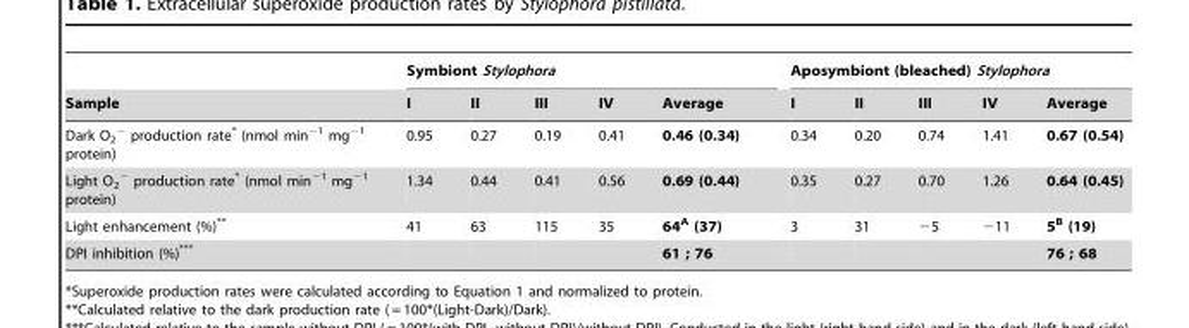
<table><thead><tr><td rowspan="2">Sample</td><td colspan="5">Symbiont Stylophora</td><td colspan="5">Aposymbiont (bleached) Stylophora</td></tr><tr><td>I</td><td>II</td><td>III</td><td>IV</td><td>Average</td><td>I</td><td>II</td><td>III</td><td>IV</td><td>Average</td></tr></thead><tbody><tr><td>Dark O<sub>2</sub> <sup>−</sup> production rate* (nmol min<sup>−1</sup> mg<sup>−1</sup> protein)</td><td>0.95</td><td>0.27</td><td>0.19</td><td>0.41</td><td>0.46 (0.34)</td><td>0.34</td><td>0.20</td><td>0.74</td><td>1.41</td><td>0.67 (0.54)</td></tr><tr><td>Light O<sub>2</sub> <sup>−</sup> production rate* (nmol min<sup>−1</sup> mg<sup>−1</sup> protein)</td><td>1.34</td><td>0.44</td><td>0.41</td><td>0.56</td><td>0.69 (0.44)</td><td>0.35</td><td>0.27</td><td>0.70</td><td>1.26</td><td>0.64 (0.45)</td></tr><tr><td>Light enhancement (%)**</td><td>41</td><td>63</td><td>115</td><td>35</td><td>64<sup>A</sup> (37)</td><td>3</td><td>31</td><td>−5</td><td>−11</td><td>5<sup>B</sup> (19)</td></tr><tr><td>DPI inhibition (%)***</td><td></td><td></td><td></td><td></td><td>61 ; 76</td><td></td><td></td><td></td><td></td><td>76 ; 68</td></tr></tbody></table>